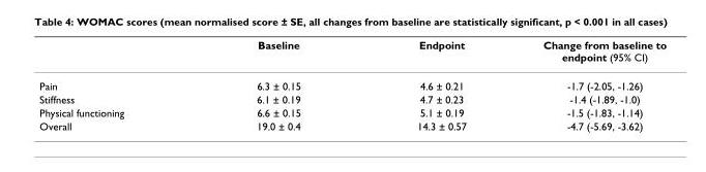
<table><thead><tr><td></td><td>Baseline</td><td>Endpoint</td><td>Change from baseline to endpoint (95% CI)</td></tr></thead><tbody><tr><td>Pain</td><td>6.3 ± 0.15</td><td>4.6 ± 0.21</td><td>-1.7 (-2.05, -1.26)</td></tr><tr><td>Stiffness</td><td>6.1 ± 0.19</td><td>4.7 ± 0.23</td><td>-1.4 (-1.89, -1.0)</td></tr><tr><td>Physical functioning</td><td>6.6 ± 0.15</td><td>5.1 ± 0.19</td><td>-1.5 (-1.83, -1.14)</td></tr><tr><td>Overall</td><td>19.0 ± 0.4</td><td>14.3 ± 0.57</td><td>-4.7 (-5.69, -3.62)</td></tr></tbody></table>